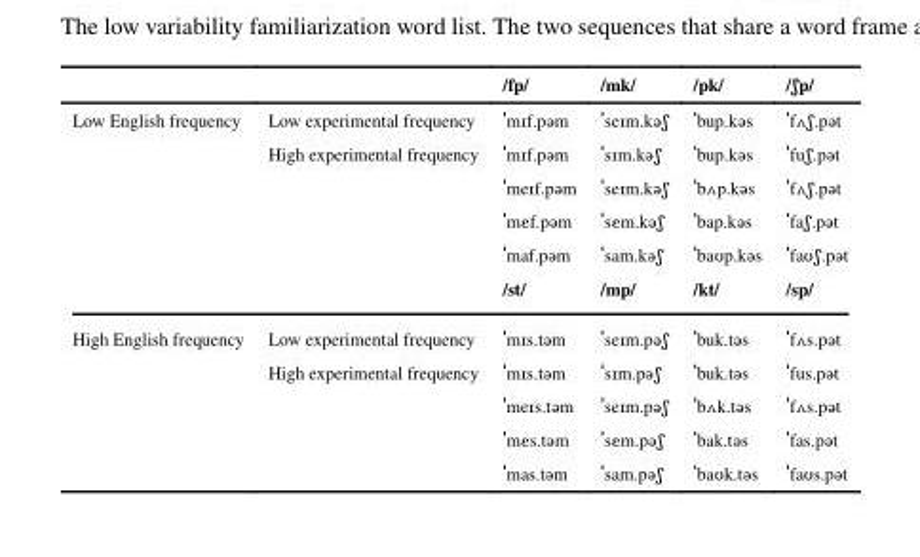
<table><thead><tr><td></td><td></td><td>/fp/</td><td>/mk/</td><td>/pk/</td><td>/ʃp/</td></tr></thead><tbody><tr><td rowspan="6">Low English frequency</td><td>Low experimental frequency</td><td>ˈmɪf.pəm</td><td>ˈseɪm.kəʃ</td><td>ˈbup.kəs</td><td>ˈfʌʃ.pət</td></tr><tr><td rowspan="5">High experimental frequency</td><td>ˈmɪf.pəm</td><td>ˈsɪm.kəʃ</td><td>ˈbup.kəs</td><td>ˈfuʃ.pət</td></tr><tr><td>ˈmeɪf.pəm</td><td>ˈseɪm.kəʃ</td><td>ˈbʌp.kəs</td><td>ˈfʌʃ.pət</td></tr><tr><td>ˈmεf.pəm</td><td>ˈsεm.kəʃ</td><td>ˈbap.kəs</td><td>ˈfaʃ.pət</td></tr><tr><td>ˈmaf.pəm</td><td>ˈsam.kəʃ</td><td>ˈbaʊp.kəs</td><td>ˈfaʊʃ.pət</td></tr><tr><td>/st/</td><td>/mp/</td><td>/kt/</td><td>/sp/</td></tr><tr><td rowspan="5">High English frequency</td><td>Low experimental frequency</td><td>ˈmɪs.təm</td><td>ˈseɪm.pəʃ</td><td>ˈbuk.təs</td><td>ˈfʌs.pət</td></tr><tr><td rowspan="4">High experimental frequency</td><td>ˈmɪs.təm</td><td>ˈsɪm.pəʃ</td><td>ˈbuk.təs</td><td>ˈfus.pət</td></tr><tr><td>ˈmeɪs.təm</td><td>ˈseɪm.pəʃ</td><td>ˈbʌk.təs</td><td>ˈfʌs.pət</td></tr><tr><td>ˈmεs.təm</td><td>ˈsεm.pəʃ</td><td>ˈbak.təs</td><td>ˈfas.pət</td></tr><tr><td>ˈmas.təm</td><td>ˈsam.pəʃ</td><td>ˈbaʊk.təs</td><td>ˈfaʊs.pət</td></tr></tbody></table>